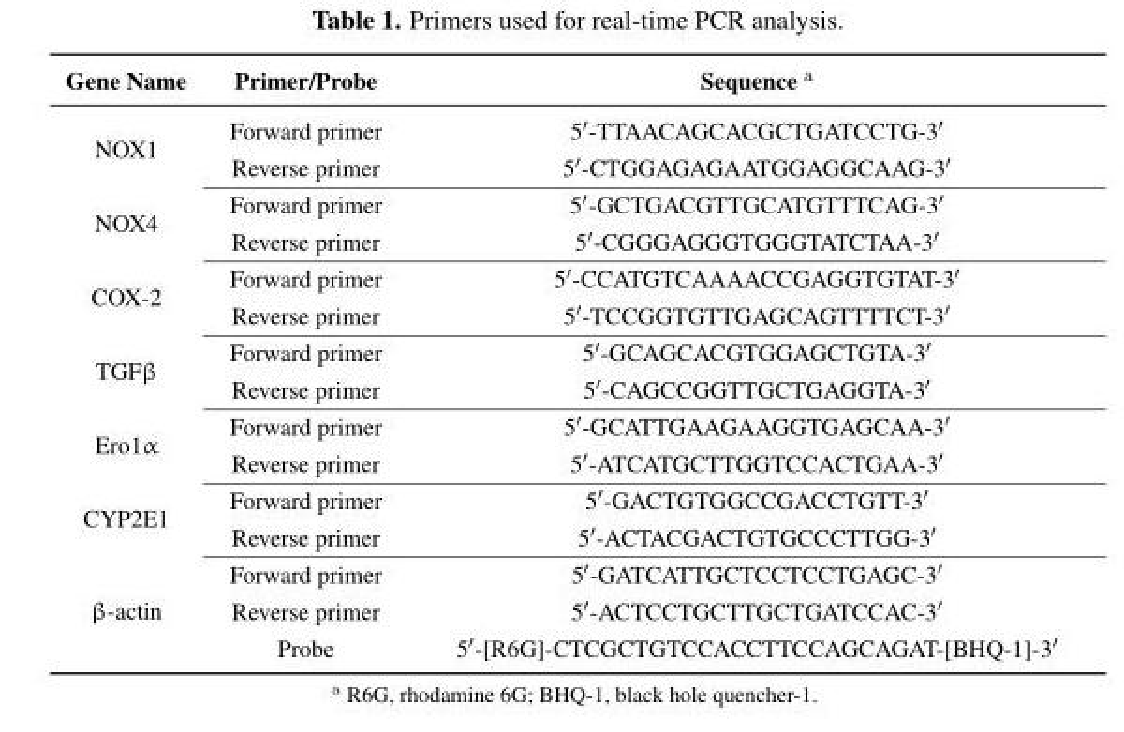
<table><thead><tr><td>Gene Name</td><td>Primer/Probe</td><td>Sequence <sup>a</sup></td></tr></thead><tbody><tr><td rowspan="2">NOX1</td><td>Forward primer</td><td>5′-TTAACAGCACGCTGATCCTG-3′</td></tr><tr><td>Reverse primer</td><td>5′-CTGGAGAGAATGGAGGCAAG-3′</td></tr><tr><td rowspan="2">NOX4</td><td>Forward primer</td><td>5′-GCTGACGTTGCATGTTTCAG-3′</td></tr><tr><td>Reverse primer</td><td>5′-CGGGAGGGTGGGTATCTAA-3′</td></tr><tr><td rowspan="2">COX-2</td><td>Forward primer</td><td>5′-CCATGTCAAAACCGAGGTGTAT-3′</td></tr><tr><td>Reverse primer</td><td>5′-TCCGGTGTTGAGCAGTTTTCT-3′</td></tr><tr><td rowspan="2">TGFβ</td><td>Forward primer</td><td>5′-GCAGCACGTGGAGCTGTA-3′</td></tr><tr><td>Reverse primer</td><td>5′-CAGCCGGTTGCTGAGGTA-3′</td></tr><tr><td rowspan="2">Ero1α</td><td>Forward primer</td><td>5′-GCATTGAAGAAGGTGAGCAA-3′</td></tr><tr><td>Reverse primer</td><td>5′-ATCATGCTTGGTCCACTGAA-3′</td></tr><tr><td rowspan="2">CYP2E1</td><td>Forward primer</td><td>5′-GACTGTGGCCGACCTGTT-3′</td></tr><tr><td>Reverse primer</td><td>5′-ACTACGACTGTGCCCTTGG-3′</td></tr><tr><td rowspan="3">β-actin</td><td>Forward primer</td><td>5′-GATCATTGCTCCTCCTGAGC-3′</td></tr><tr><td>Reverse primer</td><td>5′-ACTCCTGCTTGCTGATCCAC-3′</td></tr><tr><td>Probe</td><td>5′-[R6G]-CTCGCTGTCCACCTTCCAGCAGAT-[BHQ-1]-3′</td></tr></tbody></table>